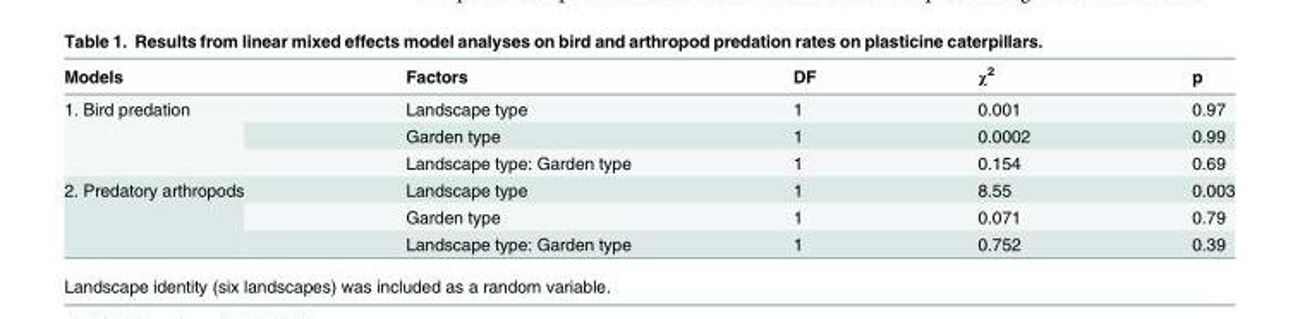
<table><thead><tr><td>Models</td><td>Factors</td><td>DF</td><td>χ<sup>2</sup></td><td>p</td></tr></thead><tbody><tr><td rowspan="3">1. Bird predation</td><td>Landscape type</td><td>1</td><td>0.001</td><td>0.97</td></tr><tr><td>Garden type</td><td>1</td><td>0.0002</td><td>0.99</td></tr><tr><td>Landscape type: Garden type</td><td>1</td><td>0.154</td><td>0.69</td></tr><tr><td rowspan="3">2. Predatory arthropods</td><td>Landscape type</td><td>1</td><td>8.55</td><td>0.003</td></tr><tr><td>Garden type</td><td>1</td><td>0.071</td><td>0.79</td></tr><tr><td>Landscape type: Garden type</td><td>1</td><td>0.752</td><td>0.39</td></tr></tbody></table>